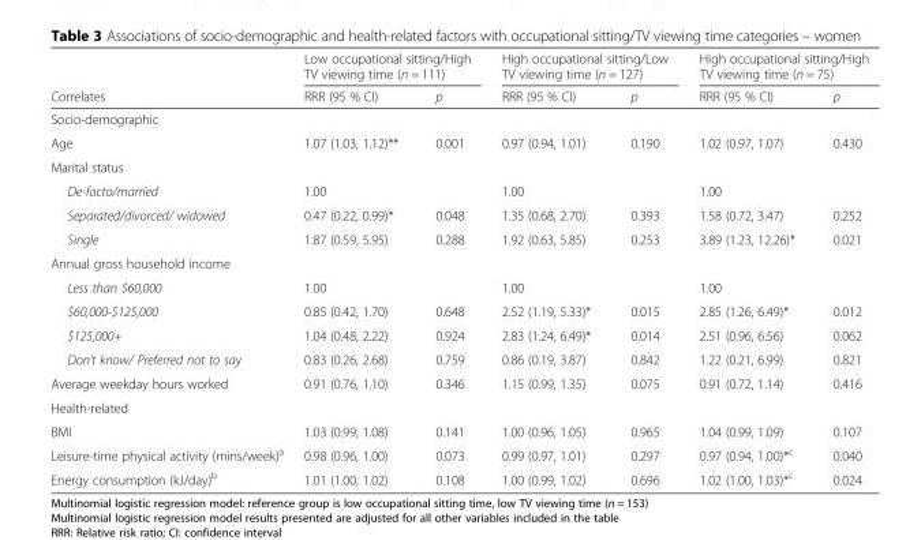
<table><thead><tr><td rowspan="2">Correlates</td><td colspan="2">Low occupational sitting/High TV viewing time (n = 111)</td><td colspan="2">High occupational sitting/Low TV viewing time (n = 127)</td><td colspan="2">High occupational sitting/High TV viewing time (n = 75)</td></tr><tr><td>RRR (95 % CI)</td><td>p</td><td>RRR (95 % CI)</td><td>p</td><td>RRR (95 % CI)</td><td>p</td></tr></thead><tbody><tr><td colspan="7">Socio-demographic</td></tr><tr><td>Age</td><td>1.07 (1.03, 1.12)**</td><td>0.001</td><td>0.97 (0.94, 1.01)</td><td>0.190</td><td>1.02 (0.97, 1.07)</td><td>0.430</td></tr><tr><td colspan="7">Marital status</td></tr><tr><td>De-facto/married</td><td>1.00</td><td></td><td>1.00</td><td></td><td>1.00</td><td></td></tr><tr><td>Separated/divorced/ widowed</td><td>0.47 (0.22, 0.99)*</td><td>0.048</td><td>1.35 (0.68, 2.70)</td><td>0.393</td><td>1.58 (0.72, 3.47)</td><td>0.252</td></tr><tr><td>Single</td><td>1.87 (0.59, 5.95)</td><td>0.288</td><td>1.92 (0.63, 5.85)</td><td>0.253</td><td>3.89 (1.23, 12.26)*</td><td>0.021</td></tr><tr><td colspan="7">Annual gross household income</td></tr><tr><td>Less than $60,000</td><td>1.00</td><td></td><td>1.00</td><td></td><td>1.00</td><td></td></tr><tr><td>$60,000-$125,000</td><td>0.85 (0.42, 1.70)</td><td>0.648</td><td>2.52 (1.19, 5.33)*</td><td>0.015</td><td>2.85 (1.26, 6.49)*</td><td>0.012</td></tr><tr><td>$125,000+</td><td>1.04 (0.48, 2.22)</td><td>0.924</td><td>2.83 (1.24, 6.49)*</td><td>0.014</td><td>2.51 (0.96, 6.56)</td><td>0.062</td></tr><tr><td>Don’t know/ Preferred not to say</td><td>0.83 (0.26, 2.68)</td><td>0.759</td><td>0.86 (0.19, 3.87)</td><td>0.842</td><td>1.22 (0.21, 6.99)</td><td>0.821</td></tr><tr><td>Average weekday hours worked</td><td>0.91 (0.76, 1.10)</td><td>0.346</td><td>1.15 (0.99, 1.35)</td><td>0.075</td><td>0.91 (0.72, 1.14)</td><td>0.416</td></tr><tr><td colspan="7">Health-related</td></tr><tr><td>BMI</td><td>1.03 (0.99, 1.08)</td><td>0.141</td><td>1.00 (0.96, 1.05)</td><td>0.965</td><td>1.04 (0.99, 1.09)</td><td>0.107</td></tr><tr><td>Leisure-time physical activity (mins/week)<sup>a</sup></td><td>0.98 (0.96, 1.00)</td><td>0.073</td><td>0.99 (0.97, 1.01)</td><td>0.297</td><td>0.97 (0.94, 1.00)*<sup>c</sup></td><td>0.040</td></tr><tr><td>Energy consumption (kJ/day)<sup>b</sup></td><td>1.01 (1.00, 1.02)</td><td>0.108</td><td>1.00 (0.99, 1.02)</td><td>0.696</td><td>1.02 (1.00, 1.03)*<sup>c</sup></td><td>0.024</td></tr></tbody></table>